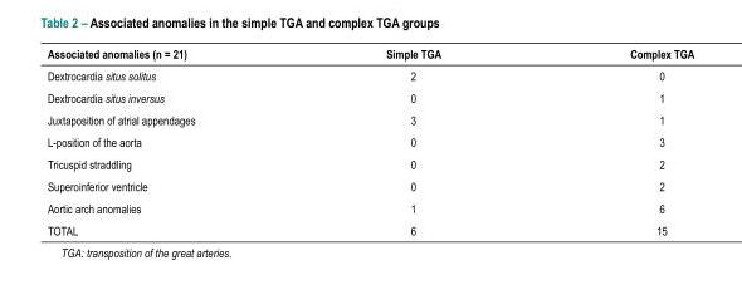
<table><thead><tr><td>Associated anomalies (n = 21)</td><td>Simple TGA</td><td>Complex TGA</td></tr></thead><tbody><tr><td>Dextrocardia situs solitus</td><td>2</td><td>0</td></tr><tr><td>Dextrocardia situs inversus</td><td>0</td><td>1</td></tr><tr><td>Juxtaposition of atrial appendages</td><td>3</td><td>1</td></tr><tr><td>L-position of the aorta</td><td>0</td><td>3</td></tr><tr><td>Tricuspid straddling</td><td>0</td><td>2</td></tr><tr><td>Superoinferior ventricle</td><td>0</td><td>2</td></tr><tr><td>Aortic arch anomalies</td><td>1</td><td>6</td></tr><tr><td>TOTAL</td><td>6</td><td>15</td></tr></tbody></table>